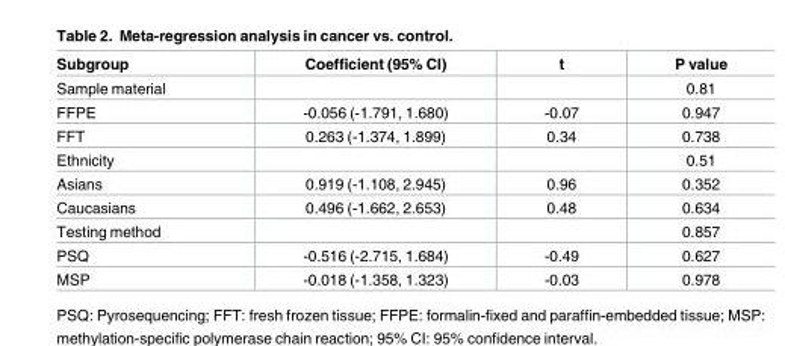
<table><thead><tr><td>Subgroup</td><td>Coefficient (95% CI)</td><td>t</td><td>P value</td></tr></thead><tbody><tr><td>Sample material</td><td></td><td></td><td>0.81</td></tr><tr><td>FFPE</td><td>-0.056 (-1.791, 1.680)</td><td>-0.07</td><td>0.947</td></tr><tr><td>FFT</td><td>0.263 (-1.374, 1.899)</td><td>0.34</td><td>0.738</td></tr><tr><td>Ethnicity</td><td></td><td></td><td>0.51</td></tr><tr><td>Asians</td><td>0.919 (-1.108, 2.945)</td><td>0.96</td><td>0.352</td></tr><tr><td>Caucasians</td><td>0.496 (-1.662, 2.653)</td><td>0.48</td><td>0.634</td></tr><tr><td>Testing method</td><td></td><td></td><td>0.857</td></tr><tr><td>PSQ</td><td>-0.516 (-2.715, 1.684)</td><td>-0.49</td><td>0.627</td></tr><tr><td>MSP</td><td>-0.018 (-1.358, 1.323)</td><td>-0.03</td><td>0.978</td></tr></tbody></table>